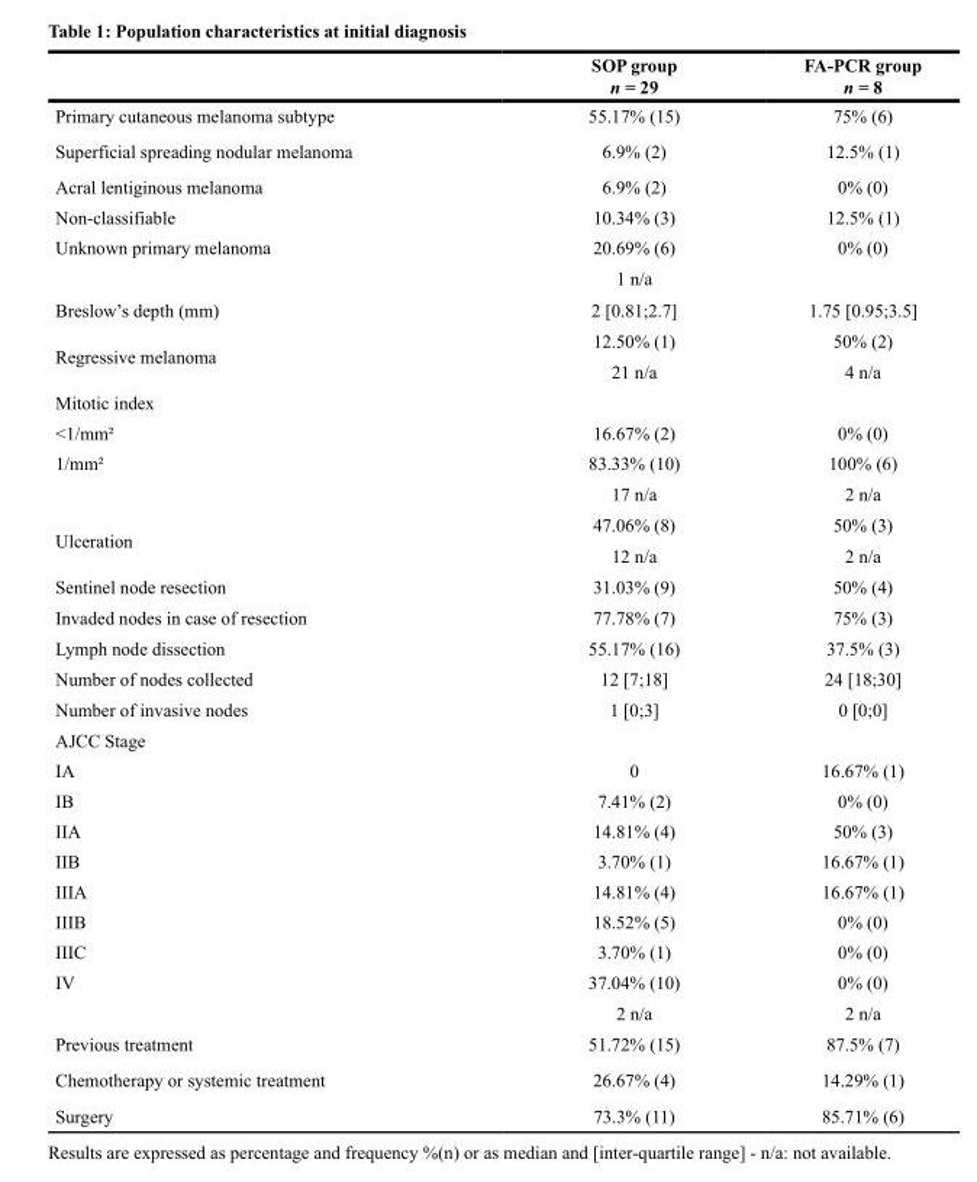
<table><thead><tr><td></td><td>SOP group n = 29</td><td>FA-PCR group n = 8</td></tr></thead><tbody><tr><td>Primary cutaneous melanoma subtype</td><td>55.17% (15)</td><td>75% (6)</td></tr><tr><td>Superficial spreading nodular melanoma</td><td>6.9% (2)</td><td>12.5% (1)</td></tr><tr><td>Acral lentiginous melanoma</td><td>6.9% (2)</td><td>0% (0)</td></tr><tr><td>Non-classifiable</td><td>10.34% (3)</td><td>12.5% (1)</td></tr><tr><td rowspan="2">Unknown primary melanoma</td><td>20.69% (6)</td><td>0% (0)</td></tr><tr><td>1 n/a</td><td></td></tr><tr><td>Breslow’s depth (mm)</td><td>2 [0.81;2.7]</td><td>1.75 [0.95;3.5]</td></tr><tr><td rowspan="2">Regressive melanoma</td><td>12.50% (1)</td><td>50% (2)</td></tr><tr><td>21 n/a</td><td>4 n/a</td></tr><tr><td colspan="3">Mitotic index</td></tr><tr><td>&lt;1/mm²</td><td>16.67% (2)</td><td>0% (0)</td></tr><tr><td rowspan="2">1/mm²</td><td>83.33% (10)</td><td>100% (6)</td></tr><tr><td>17 n/a</td><td>2 n/a</td></tr><tr><td rowspan="2">Ulceration</td><td>47.06% (8)</td><td>50% (3)</td></tr><tr><td>12 n/a</td><td>2 n/a</td></tr><tr><td>Sentinel node resection</td><td>31.03% (9)</td><td>50% (4)</td></tr><tr><td>Invaded nodes in case of resection</td><td>77.78% (7)</td><td>75% (3)</td></tr><tr><td>Lymph node dissection</td><td>55.17% (16)</td><td>37.5% (3)</td></tr><tr><td>Number of nodes collected</td><td>12 [7;18]</td><td>24 [18;30]</td></tr><tr><td>Number of invasive nodes</td><td>1 [0;3]</td><td>0 [0;0]</td></tr><tr><td colspan="3">AJCC Stage</td></tr><tr><td>IA</td><td>0</td><td>16.67% (1)</td></tr><tr><td>IB</td><td>7.41% (2)</td><td>0% (0)</td></tr><tr><td>IIA</td><td>14.81% (4)</td><td>50% (3)</td></tr><tr><td>IIB</td><td>3.70% (1)</td><td>16.67% (1)</td></tr><tr><td>IIIA</td><td>14.81% (4)</td><td>16.67% (1)</td></tr><tr><td>IIIB</td><td>18.52% (5)</td><td>0% (0)</td></tr><tr><td>IIIC</td><td>3.70% (1)</td><td>0% (0)</td></tr><tr><td rowspan="2">IV</td><td>37.04% (10)</td><td>0% (0)</td></tr><tr><td>2 n/a</td><td>2 n/a</td></tr><tr><td>Previous treatment</td><td>51.72% (15)</td><td>87.5% (7)</td></tr><tr><td>Chemotherapy or systemic treatment</td><td>26.67% (4)</td><td>14.29% (1)</td></tr><tr><td>Surgery</td><td>73.3% (11)</td><td>85.71% (6)</td></tr></tbody></table>